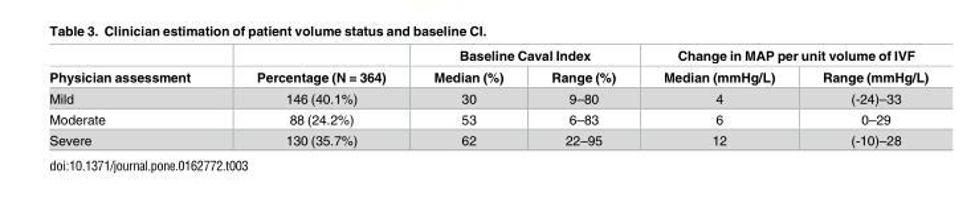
<table><thead><tr><td rowspan="2">Physician assessment</td><td rowspan="2">Percentage (N = 364)</td><td colspan="2">Baseline Caval Index</td><td colspan="2">Change in MAP per unit volume of IVF</td></tr><tr><td>Median (%)</td><td>Range (%)</td><td>Median (mmHg/L)</td><td>Range (mmHg/L)</td></tr></thead><tbody><tr><td>Mild</td><td>146 (40.1%)</td><td>30</td><td>9–80</td><td>4</td><td>(-24)–33</td></tr><tr><td>Moderate</td><td>88 (24.2%)</td><td>53</td><td>6–83</td><td>6</td><td>0–29</td></tr><tr><td>Severe</td><td>130 (35.7%)</td><td>62</td><td>22–95</td><td>12</td><td>(-10)–28</td></tr></tbody></table>